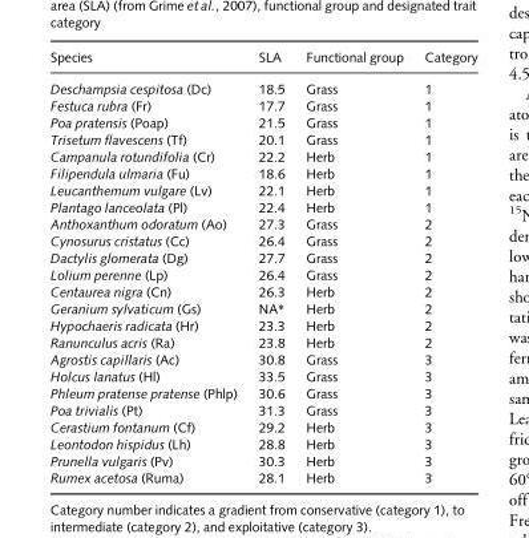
<table><thead><tr><td>Species</td><td>SLA</td><td>Functional group</td><td>Category</td></tr></thead><tbody><tr><td>Deschampsia cespitosa (Dc)</td><td>18.5</td><td>Grass</td><td>1</td></tr><tr><td>Festuca rubra (Fr)</td><td>17.7</td><td>Grass</td><td>1</td></tr><tr><td>Poa pratensis (Poap)</td><td>21.5</td><td>Grass</td><td>1</td></tr><tr><td>Trisetum flavescens (Tf)</td><td>20.1</td><td>Grass</td><td>1</td></tr><tr><td>Campanula rotundifolia (Cr)</td><td>22.2</td><td>Herb</td><td>1</td></tr><tr><td>Filipendula ulmaria (Fu)</td><td>18.6</td><td>Herb</td><td>1</td></tr><tr><td>Leucanthemum vulgare (Lv)</td><td>22.1</td><td>Herb</td><td>1</td></tr><tr><td>Plantago lanceolata (Pl)</td><td>22.4</td><td>Herb</td><td>1</td></tr><tr><td>Anthoxanthum odoratum (Ao)</td><td>27.3</td><td>Grass</td><td>2</td></tr><tr><td>Cynosurus cristatus (Cc)</td><td>26.4</td><td>Grass</td><td>2</td></tr><tr><td>Dactylis glomerata (Dg)</td><td>27.7</td><td>Grass</td><td>2</td></tr><tr><td>Lolium perenne (Lp)</td><td>26.4</td><td>Grass</td><td>2</td></tr><tr><td>Centaurea nigra (Cn)</td><td>26.3</td><td>Herb</td><td>2</td></tr><tr><td>Geranium sylvaticum (Gs)</td><td>NA*</td><td>Herb</td><td>2</td></tr><tr><td>Hypochaeris radicata (Hr)</td><td>23.3</td><td>Herb</td><td>2</td></tr><tr><td>Ranunculus acris (Ra)</td><td>23.8</td><td>Herb</td><td>2</td></tr><tr><td>Agrostis capillaris (Ac)</td><td>30.8</td><td>Grass</td><td>3</td></tr><tr><td>Holcus lanatus (Hl)</td><td>33.5</td><td>Grass</td><td>3</td></tr><tr><td>Phleum pratense pratense (Phlp)</td><td>30.6</td><td>Grass</td><td>3</td></tr><tr><td>Poa trivialis (Pt)</td><td>31.3</td><td>Grass</td><td>3</td></tr><tr><td>Cerastium fontanum (Cf)</td><td>29.2</td><td>Herb</td><td>3</td></tr><tr><td>Leontodon hispidus (Lh)</td><td>28.8</td><td>Herb</td><td>3</td></tr><tr><td>Prunella vulgaris (Pv)</td><td>30.3</td><td>Herb</td><td>3</td></tr><tr><td>Rumex acetosa (Ruma)</td><td>28.1</td><td>Herb</td><td>3</td></tr></tbody></table>